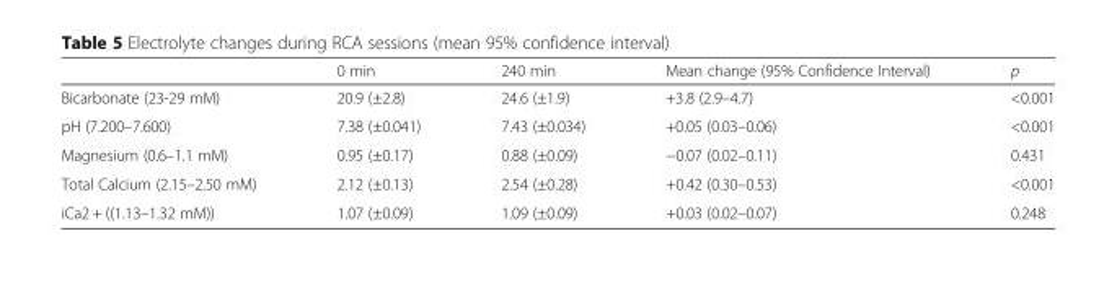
<table><thead><tr><td></td><td>0 min</td><td>240 min</td><td>Mean change (95% Confidence Interval)</td><td>p</td></tr></thead><tbody><tr><td>Bicarbonate (23-29 mM)</td><td>20.9 (±2.8)</td><td>24.6 (±1.9)</td><td>+3.8 (2.9–4.7)</td><td>&lt;0.001</td></tr><tr><td>pH (7.200–7.600)</td><td>7.38 (±0.041)</td><td>7.43 (±0.034)</td><td>+0.05 (0.03–0.06)</td><td>&lt;0.001</td></tr><tr><td>Magnesium (0.6–1.1 mM)</td><td>0.95 (±0.17)</td><td>0.88 (±0.09)</td><td>−0.07 (0.02–0.11)</td><td>0.431</td></tr><tr><td>Total Calcium (2.15–2.50 mM)</td><td>2.12 (±0.13)</td><td>2.54 (±0.28)</td><td>+0.42 (0.30–0.53)</td><td>&lt;0.001</td></tr><tr><td>iCa2 + ((1.13–1.32 mM))</td><td>1.07 (±0.09)</td><td>1.09 (±0.09)</td><td>+0.03 (0.02–0.07)</td><td>0.248</td></tr></tbody></table>